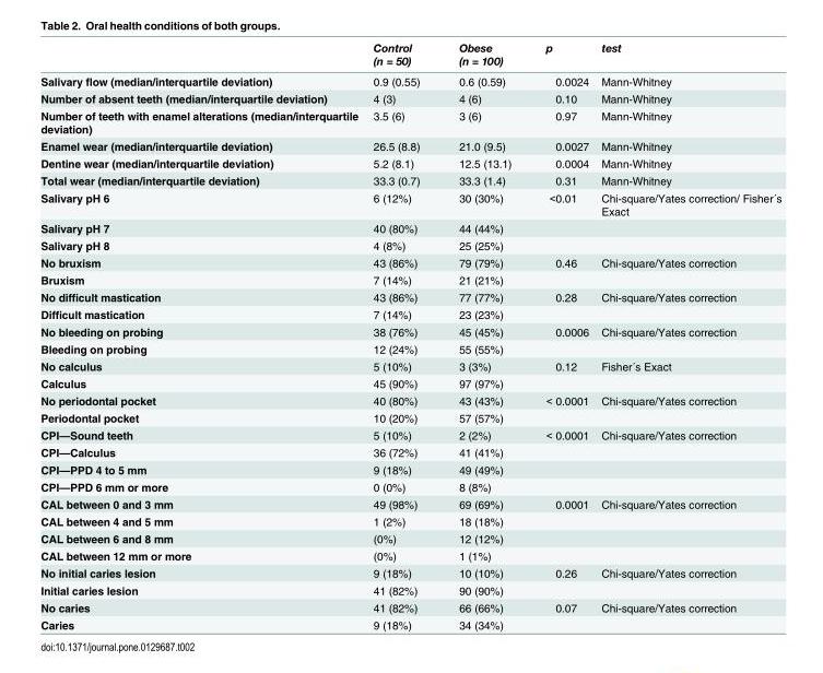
<table><thead><tr><td></td><td>Control (n = 50)</td><td>Obese (n = 100)</td><td>p</td><td>test</td></tr></thead><tbody><tr><td>Salivary flow (median/interquartile deviation)</td><td>0.9 (0.55)</td><td>0.6 (0.59)</td><td>0.0024</td><td>Mann-Whitney</td></tr><tr><td>Number of absent teeth (median/interquartile deviation)</td><td>4 (3)</td><td>4 (6)</td><td>0.10</td><td>Mann-Whitney</td></tr><tr><td>Number of teeth with enamel alterations (median/interquartile deviation)</td><td>3.5 (6)</td><td>3 (6)</td><td>0.97</td><td>Mann-Whitney</td></tr><tr><td>Enamel wear (median/interquartile deviation)</td><td>26.5 (8.8)</td><td>21.0 (9.5)</td><td>0.0027</td><td>Mann-Whitney</td></tr><tr><td>Dentine wear (median/interquartile deviation)</td><td>5.2 (8.1)</td><td>12.5 (13.1)</td><td>0.0004</td><td>Mann-Whitney</td></tr><tr><td>Total wear (median/interquartile deviation)</td><td>33.3 (0.7)</td><td>33.3 (1.4)</td><td>0.31</td><td>Mann-Whitney</td></tr><tr><td>Salivary pH 6</td><td>6 (12%)</td><td>30 (30%)</td><td>&lt;0.01</td><td>Chi-square/Yates correction/ Fisher´s Exact</td></tr><tr><td>Salivary pH 7</td><td>40 (80%)</td><td>44 (44%)</td><td></td><td></td></tr><tr><td>Salivary pH 8</td><td>4 (8%)</td><td>25 (25%)</td><td></td><td></td></tr><tr><td>No bruxism</td><td>43 (86%)</td><td>79 (79%)</td><td>0.46</td><td>Chi-square/Yates correction</td></tr><tr><td>Bruxism</td><td>7 (14%)</td><td>21 (21%)</td><td></td><td></td></tr><tr><td>No difficult mastication</td><td>43 (86%)</td><td>77 (77%)</td><td>0.28</td><td>Chi-square/Yates correction</td></tr><tr><td>Difficult mastication</td><td>7 (14%)</td><td>23 (23%)</td><td></td><td></td></tr><tr><td>No bleeding on probing</td><td>38 (76%)</td><td>45 (45%)</td><td>0.0006</td><td>Chi-square/Yates correction</td></tr><tr><td>Bleeding on probing</td><td>12 (24%)</td><td>55 (55%)</td><td></td><td></td></tr><tr><td>No calculus</td><td>5 (10%)</td><td>3 (3%)</td><td>0.12</td><td>Fisher´s Exact</td></tr><tr><td>Calculus</td><td>45 (90%)</td><td>97 (97%)</td><td></td><td></td></tr><tr><td>No periodontal pocket</td><td>40 (80%)</td><td>43 (43%)</td><td>&lt; 0.0001</td><td>Chi-square/Yates correction</td></tr><tr><td>Periodontal pocket</td><td>10 (20%)</td><td>57 (57%)</td><td></td><td></td></tr><tr><td>CPI—Sound teeth</td><td>5 (10%)</td><td>2 (2%)</td><td>&lt; 0.0001</td><td>Chi-square/Yates correction</td></tr><tr><td>CPI—Calculus</td><td>36 (72%)</td><td>41 (41%)</td><td></td><td></td></tr><tr><td>CPI—PPD 4 to 5 mm</td><td>9 (18%)</td><td>49 (49%)</td><td></td><td></td></tr><tr><td>CPI—PPD 6 mm or more</td><td>0 (0%)</td><td>8 (8%)</td><td></td><td></td></tr><tr><td>CAL between 0 and 3 mm</td><td>49 (98%)</td><td>69 (69%)</td><td>0.0001</td><td>Chi-square/Yates correction</td></tr><tr><td>CAL between 4 and 5 mm</td><td>1 (2%)</td><td>18 (18%)</td><td></td><td></td></tr><tr><td>CAL between 6 and 8 mm</td><td>(0%)</td><td>12 (12%)</td><td></td><td></td></tr><tr><td>CAL between 12 mm or more</td><td>(0%)</td><td>1 (1%)</td><td></td><td></td></tr><tr><td>No initial caries lesion</td><td>9 (18%)</td><td>10 (10%)</td><td>0.26</td><td>Chi-square/Yates correction</td></tr><tr><td>Initial caries lesion</td><td>41 (82%)</td><td>90 (90%)</td><td></td><td></td></tr><tr><td>No caries</td><td>41 (82%)</td><td>66 (66%)</td><td>0.07</td><td>Chi-square/Yates correction</td></tr><tr><td>Caries</td><td>9 (18%)</td><td>34 (34%)</td><td></td><td></td></tr></tbody></table>